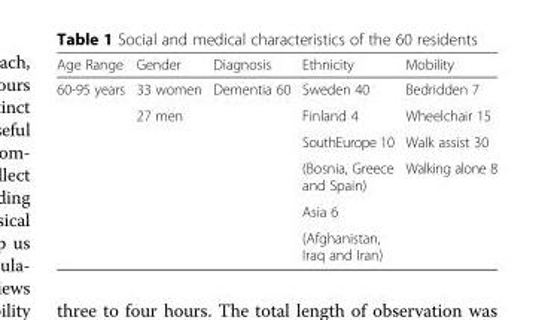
<table><thead><tr><td>Age Range</td><td>Gender</td><td>Diagnosis</td><td>Ethnicity</td><td>Mobility</td></tr></thead><tbody><tr><td rowspan="6">60-95 years</td><td>33 women</td><td rowspan="6">Dementia 60</td><td>Sweden 40</td><td>Bedridden 7</td></tr><tr><td rowspan="5">27 men</td><td>Finland 4</td><td>Wheelchair 15</td></tr><tr><td>SouthEurope 10</td><td>Walk assist 30</td></tr><tr><td>(Bosnia, Greece and Spain)</td><td rowspan="3">Walking alone 8</td></tr><tr><td>Asia 6</td></tr><tr><td>(Afghanistan, Iraq and Iran)</td></tr></tbody></table>